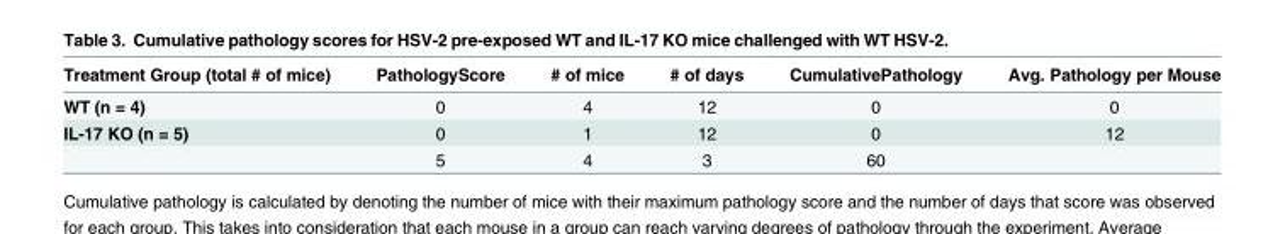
<table><thead><tr><td>Treatment Group (total # of mice)</td><td>PathologyScore</td><td># of mice</td><td># of days</td><td>CumulativePathology</td><td>Avg. Pathology per Mouse</td></tr></thead><tbody><tr><td>WT (n = 4)</td><td>0</td><td>4</td><td>12</td><td>0</td><td>0</td></tr><tr><td rowspan="2">IL-17 KO (n = 5)</td><td>0</td><td>1</td><td>12</td><td>0</td><td>12</td></tr><tr><td>5</td><td>4</td><td>3</td><td>60</td><td></td></tr></tbody></table>